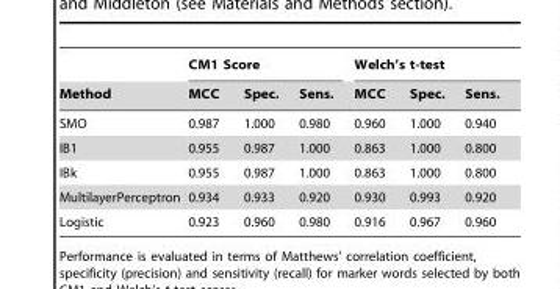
<table><thead><tr><td rowspan="2">Method</td><td colspan="3">CM1 Score</td><td colspan="3">Welch’s t-test</td></tr><tr><td>MCC</td><td>Spec.</td><td>Sens.</td><td>MCC</td><td>Spec.</td><td>Sens.</td></tr></thead><tbody><tr><td>SMO</td><td>0.987</td><td>1.000</td><td>0.980</td><td>0.960</td><td>1.000</td><td>0.940</td></tr><tr><td>IB1</td><td>0.955</td><td>0.987</td><td>1.000</td><td>0.863</td><td>1.000</td><td>0.800</td></tr><tr><td>IBk</td><td>0.955</td><td>0.987</td><td>1.000</td><td>0.863</td><td>1.000</td><td>0.800</td></tr><tr><td>MultilayerPerceptron</td><td>0.934</td><td>0.933</td><td>0.920</td><td>0.930</td><td>0.993</td><td>0.920</td></tr><tr><td>Logistic</td><td>0.923</td><td>0.960</td><td>0.980</td><td>0.916</td><td>0.967</td><td>0.960</td></tr></tbody></table>